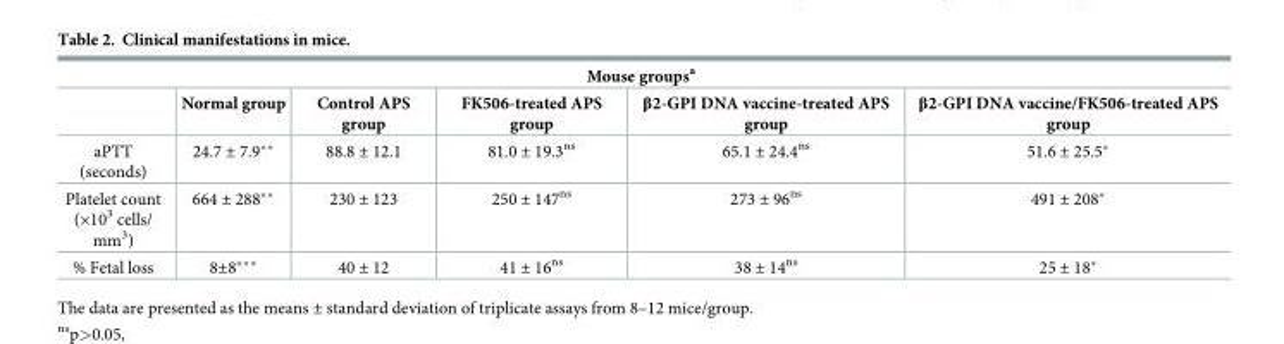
<table><thead><tr><td colspan="6">Mouse groups<sup>a</sup></td></tr><tr><td></td><td>Normal group</td><td>Control APS group</td><td>FK506-treated APS group</td><td>β2-GPI DNA vaccine-treated APS group</td><td>β2-GPI DNA vaccine/FK506-treated APS group</td></tr></thead><tbody><tr><td>aPTT (seconds)</td><td>24.7 ± 7.9**</td><td>88.8 ± 12.1</td><td>81.0 ± 19.3<sup>ns</sup></td><td>65.1 ± 24.4<sup>ns</sup></td><td>51.6 ± 25.5*</td></tr><tr><td>Platelet count (×10<sup>3</sup> cells/ mm<sup>3</sup>)</td><td>664 ± 288**</td><td>230 ± 123</td><td>250 ± 147<sup>ns</sup></td><td>273 ± 96<sup>ns</sup></td><td>491 ± 208*</td></tr><tr><td>% Fetal loss</td><td>8±8***</td><td>40 ± 12</td><td>41 ± 16<sup>ns</sup></td><td>38 ± 14<sup>ns</sup></td><td>25 ± 18*</td></tr></tbody></table>